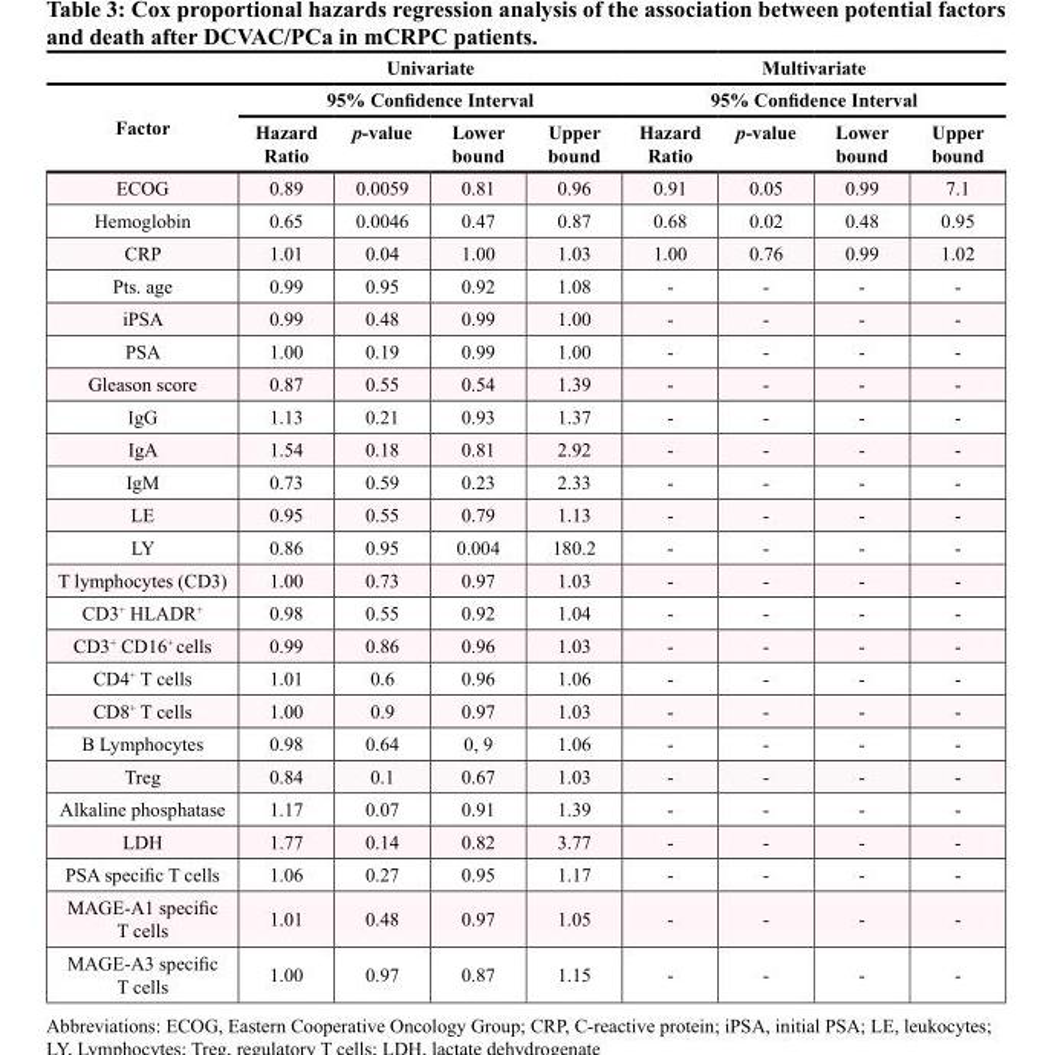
<table><thead><tr><td rowspan="3">Factor</td><td rowspan="2" colspan="4">Univariate 95% Confidence Interval</td><td rowspan="2" colspan="4">Multivariate 95% Confidence Interval</td></tr><tr></tr><tr><td>Hazard Ratio</td><td>p-value</td><td>Lower bound</td><td>Upper bound</td><td>Hazard Ratio</td><td>p-value</td><td>Lower bound</td><td>Upper bound</td></tr></thead><tbody><tr><td>ECOG</td><td>0.89</td><td>0.0059</td><td>0.81</td><td>0.96</td><td>0.91</td><td>0.05</td><td>0.99</td><td>7.1</td></tr><tr><td>Hemoglobin</td><td>0.65</td><td>0.0046</td><td>0.47</td><td>0.87</td><td>0.68</td><td>0.02</td><td>0.48</td><td>0.95</td></tr><tr><td>CRP</td><td>1.01</td><td>0.04</td><td>1.00</td><td>1.03</td><td>1.00</td><td>0.76</td><td>0.99</td><td>1.02</td></tr><tr><td>Pts. age</td><td>0.99</td><td>0.95</td><td>0.92</td><td>1.08</td><td>-</td><td>-</td><td>-</td><td>-</td></tr><tr><td>iPSA</td><td>0.99</td><td>0.48</td><td>0.99</td><td>1.00</td><td>-</td><td>-</td><td>-</td><td>-</td></tr><tr><td>PSA</td><td>1.00</td><td>0.19</td><td>0.99</td><td>1.00</td><td>-</td><td>-</td><td>-</td><td>-</td></tr><tr><td>Gleason score</td><td>0.87</td><td>0.55</td><td>0.54</td><td>1.39</td><td>-</td><td>-</td><td>-</td><td>-</td></tr><tr><td>IgG</td><td>1.13</td><td>0.21</td><td>0.93</td><td>1.37</td><td>-</td><td>-</td><td>-</td><td>-</td></tr><tr><td>IgA</td><td>1.54</td><td>0.18</td><td>0.81</td><td>2.92</td><td>-</td><td>-</td><td>-</td><td>-</td></tr><tr><td>IgM</td><td>0.73</td><td>0.59</td><td>0.23</td><td>2.33</td><td>-</td><td>-</td><td>-</td><td>-</td></tr><tr><td>LE</td><td>0.95</td><td>0.55</td><td>0.79</td><td>1.13</td><td>-</td><td>-</td><td>-</td><td>-</td></tr><tr><td>LY</td><td>0.86</td><td>0.95</td><td>0.004</td><td>180.2</td><td>-</td><td>-</td><td>-</td><td>-</td></tr><tr><td>T lymphocytes (CD3)</td><td>1.00</td><td>0.73</td><td>0.97</td><td>1.03</td><td>-</td><td>-</td><td>-</td><td>-</td></tr><tr><td>CD3<sup>+</sup> HLADR<sup>+</sup></td><td>0.98</td><td>0.55</td><td>0.92</td><td>1.04</td><td>-</td><td>-</td><td>-</td><td>-</td></tr><tr><td>CD3<sup>+</sup> CD16<sup>+</sup> cells</td><td>0.99</td><td>0.86</td><td>0.96</td><td>1.03</td><td>-</td><td>-</td><td>-</td><td>-</td></tr><tr><td>CD4<sup>+</sup> T cells</td><td>1.01</td><td>0.6</td><td>0.96</td><td>1.06</td><td>-</td><td>-</td><td>-</td><td>-</td></tr><tr><td>CD8<sup>+</sup> T cells</td><td>1.00</td><td>0.9</td><td>0.97</td><td>1.03</td><td>-</td><td>-</td><td>-</td><td>-</td></tr><tr><td>B Lymphocytes</td><td>0.98</td><td>0.64</td><td>0, 9</td><td>1.06</td><td>-</td><td>-</td><td>-</td><td>-</td></tr><tr><td>Treg</td><td>0.84</td><td>0.1</td><td>0.67</td><td>1.03</td><td>-</td><td>-</td><td>-</td><td>-</td></tr><tr><td>Alkaline phosphatase</td><td>1.17</td><td>0.07</td><td>0.91</td><td>1.39</td><td>-</td><td>-</td><td>-</td><td>-</td></tr><tr><td>LDH</td><td>1.77</td><td>0.14</td><td>0.82</td><td>3.77</td><td>-</td><td>-</td><td>-</td><td>-</td></tr><tr><td>PSA specific T cells</td><td>1.06</td><td>0.27</td><td>0.95</td><td>1.17</td><td>-</td><td>-</td><td>-</td><td>-</td></tr><tr><td>MAGE-A1 specific T cells</td><td>1.01</td><td>0.48</td><td>0.97</td><td>1.05</td><td>-</td><td>-</td><td>-</td><td>-</td></tr><tr><td>MAGE-A3 specific T cells</td><td>1.00</td><td>0.97</td><td>0.87</td><td>1.15</td><td>-</td><td>-</td><td>-</td><td>-</td></tr></tbody></table>